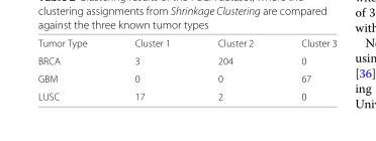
<table><tbody><tr><td>Tumor Type</td><td>Cluster 1</td><td>Cluster 2</td><td>Cluster 3</td></tr><tr><td>BRCA</td><td>3</td><td>204</td><td>0</td></tr><tr><td>GBM</td><td>0</td><td>0</td><td>67</td></tr><tr><td>LUSC</td><td>17</td><td>2</td><td>0</td></tr></tbody></table>